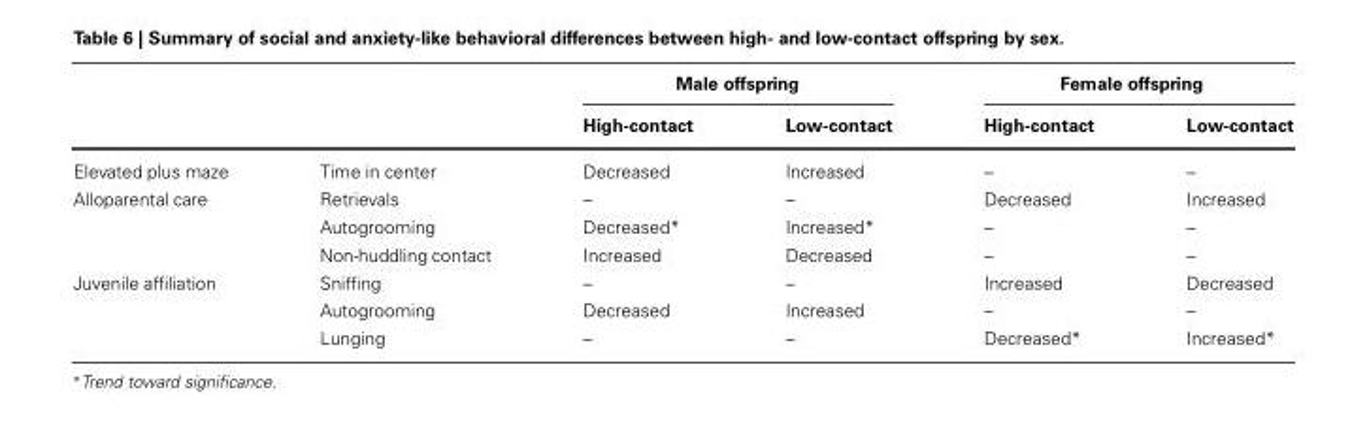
<table><thead><tr><td rowspan="2"></td><td rowspan="2"></td><td colspan="2">Male offspring</td><td colspan="2">Female offspring</td></tr><tr><td>High-contact</td><td>Low-contact</td><td>High-contact</td><td>Low-contact</td></tr></thead><tbody><tr><td>Elevated plus maze</td><td>Time in center</td><td>Decreased</td><td>Increased</td><td>–</td><td>–</td></tr><tr><td rowspan="3">Alloparental care</td><td>Retrievals</td><td>–</td><td>–</td><td>Decreased</td><td>Increased</td></tr><tr><td>Autogrooming</td><td>Decreased*</td><td>Increased*</td><td>–</td><td>–</td></tr><tr><td>Non-huddling contact</td><td>Increased</td><td>Decreased</td><td>–</td><td>–</td></tr><tr><td rowspan="3">Juvenile affiliation</td><td>Sniffing</td><td>–</td><td>–</td><td>Increased</td><td>Decreased</td></tr><tr><td>Autogrooming</td><td>Decreased</td><td>Increased</td><td>–</td><td>–</td></tr><tr><td>Lunging</td><td>–</td><td>–</td><td>Decreased*</td><td>Increased*</td></tr></tbody></table>